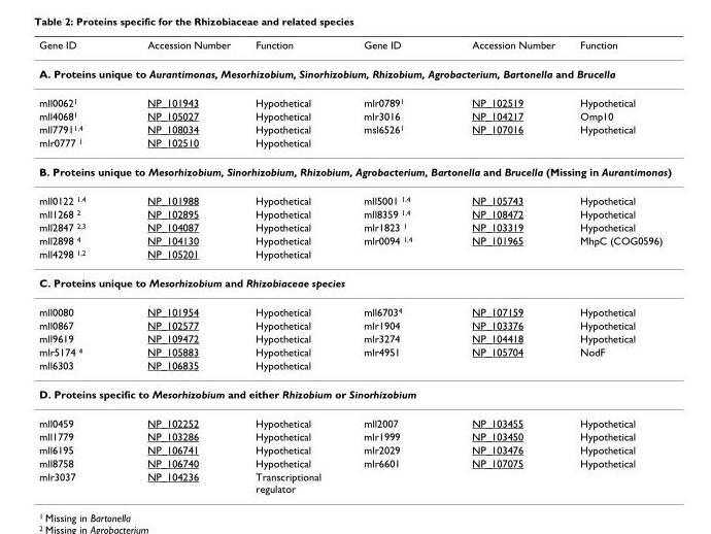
<table><thead><tr><td>Gene ID</td><td>Accession Number</td><td>Function</td><td>Gene ID</td><td>Accession Number</td><td>Function</td></tr></thead><tbody><tr><td colspan="6">A. Proteins unique to Aurantimonas, Mesorhizobium, Sinorhizobium, Rhizobium, Agrobacterium, Bartonella and Brucella</td></tr><tr><td>mll00621</td><td>NP_101943</td><td>Hypothetical</td><td>mlr07891</td><td>NP_102519</td><td>Hypothetical</td></tr><tr><td>mll40681</td><td>NP_105027</td><td>Hypothetical</td><td>mlr3016</td><td>NP_104217</td><td>Omp10</td></tr><tr><td>mll77911,4</td><td>NP_108034</td><td>Hypothetical</td><td>msl65261</td><td>NP_107016</td><td>Hypothetical</td></tr><tr><td>mlr0777 1</td><td>NP_102510</td><td>Hypothetical</td><td></td><td></td><td></td></tr><tr><td colspan="6">B. Proteins unique to Mesorhizobium, Sinorhizobium, Rhizobium, Agrobacterium, Bartonella and Brucella (Missing in Aurantimonas)</td></tr><tr><td>mll0122 1,4</td><td>NP_101988</td><td>Hypothetical</td><td>mll5001 1,4</td><td>NP_105743</td><td>Hypothetical</td></tr><tr><td>mll1268 2</td><td>NP_102895</td><td>Hypothetical</td><td>mll8359 1,4</td><td>NP_108472</td><td>Hypothetical</td></tr><tr><td>mll2847 2,3</td><td>NP_104087</td><td>Hypothetical</td><td>mlr1823 1</td><td>NP_103319</td><td>Hypothetical</td></tr><tr><td>mll2898 4</td><td>NP_104130</td><td>Hypothetical</td><td>mlr0094 1,4</td><td>NP_101965</td><td>MhpC (COG0596)</td></tr><tr><td>mll4298 1,2</td><td>NP_105201</td><td>Hypothetical</td><td></td><td></td><td></td></tr><tr><td colspan="6">C. Proteins unique to Mesorhizobium and Rhizobiaceae species</td></tr><tr><td>mll0080</td><td>NP_101954</td><td>Hypothetical</td><td>mll67034</td><td>NP_107159</td><td>Hypothetical</td></tr><tr><td>mll0867</td><td>NP_102577</td><td>Hypothetical</td><td>mlr1904</td><td>NP_103376</td><td>Hypothetical</td></tr><tr><td>mll9619</td><td>NP_109472</td><td>Hypothetical</td><td>mlr3274</td><td>NP_104418</td><td>Hypothetical</td></tr><tr><td>mlr5174 4</td><td>NP_105883</td><td>Hypothetical</td><td>mlr4951</td><td>NP_105704</td><td>NodF</td></tr><tr><td>mll6303</td><td>NP_106835</td><td>Hypothetical</td><td></td><td></td><td></td></tr><tr><td colspan="6">D. Proteins specific to Mesorhizobium and either Rhizobium or Sinorhizobium</td></tr><tr><td>mll0459</td><td>NP_102252</td><td>Hypothetical</td><td>mll2007</td><td>NP_103455</td><td>Hypothetical</td></tr><tr><td>mll1779</td><td>NP_103286</td><td>Hypothetical</td><td>mlr1999</td><td>NP_103450</td><td>Hypothetical</td></tr><tr><td>mll6195</td><td>NP_106741</td><td>Hypothetical</td><td>mlr2029</td><td>NP_103476</td><td>Hypothetical</td></tr><tr><td>mll8758</td><td>NP_106740</td><td>Hypothetical</td><td>mlr6601</td><td>NP_107075</td><td>Hypothetical</td></tr><tr><td>mlr3037</td><td>NP_104236</td><td>Transcriptional regulator</td><td></td><td></td><td></td></tr></tbody></table>